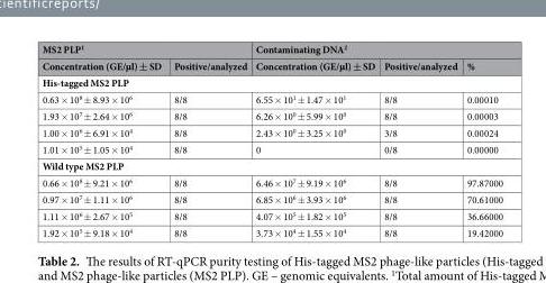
<table><thead><tr><td colspan="2">MS2 PLP<sup>1</sup></td><td colspan="3">Contaminating DNA<sup>2</sup></td></tr><tr><td>Concentration (GE/µl) ± SD</td><td>Positive/analyzed</td><td>Concentration (GE/µl) ± SD</td><td>Positive/analyzed</td><td>%</td></tr></thead><tbody><tr><td colspan="5">His-tagged MS2 PLP</td></tr><tr><td>0.63 × 10<sup>8</sup> ± 8.93 × 10<sup>6</sup></td><td>8/8</td><td>6.55 × 10<sup>1</sup> ± 1.47 × 10<sup>1</sup></td><td>8/8</td><td>0.00010</td></tr><tr><td>1.93 × 10<sup>7</sup> ± 2.64 × 10<sup>6</sup></td><td>8/8</td><td>6.26 × 10<sup>0</sup> ± 5.99 × 10<sup>0</sup></td><td>8/8</td><td>0.00003</td></tr><tr><td>1.00 × 10<sup>6</sup> ± 6.91 × 10<sup>4</sup></td><td>8/8</td><td>2.43 × 10<sup>0</sup> ± 3.25 × 10<sup>0</sup></td><td>3/8</td><td>0.00024</td></tr><tr><td>1.01 × 10<sup>5</sup> ± 1.05 × 10<sup>4</sup></td><td>8/8</td><td>0</td><td>0/8</td><td>0.00000</td></tr><tr><td colspan="5">Wild type MS2 PLP</td></tr><tr><td>0.66 × 10<sup>8</sup> ± 9.21 × 10<sup>6</sup></td><td>8/8</td><td>6.46 × 10<sup>7</sup> ± 9.19 × 10<sup>6</sup></td><td>8/8</td><td>97.87000</td></tr><tr><td>0.97 × 10<sup>7</sup> ± 1.11 × 10<sup>6</sup></td><td>8/8</td><td>6.85 × 10<sup>6</sup> ± 3.93 × 10<sup>6</sup></td><td>8/8</td><td>70.61000</td></tr><tr><td>1.11 × 10<sup>6</sup> ± 2.67 × 10<sup>5</sup></td><td>8/8</td><td>4.07 × 10<sup>5</sup> ± 1.82 × 10<sup>5</sup></td><td>8/8</td><td>36.66000</td></tr><tr><td>1.92 × 10<sup>5</sup> ± 9.18 × 10<sup>4</sup></td><td>8/8</td><td>3.73 × 10<sup>4</sup> ± 1.55 × 10<sup>4</sup></td><td>8/8</td><td>19.42000</td></tr></tbody></table>